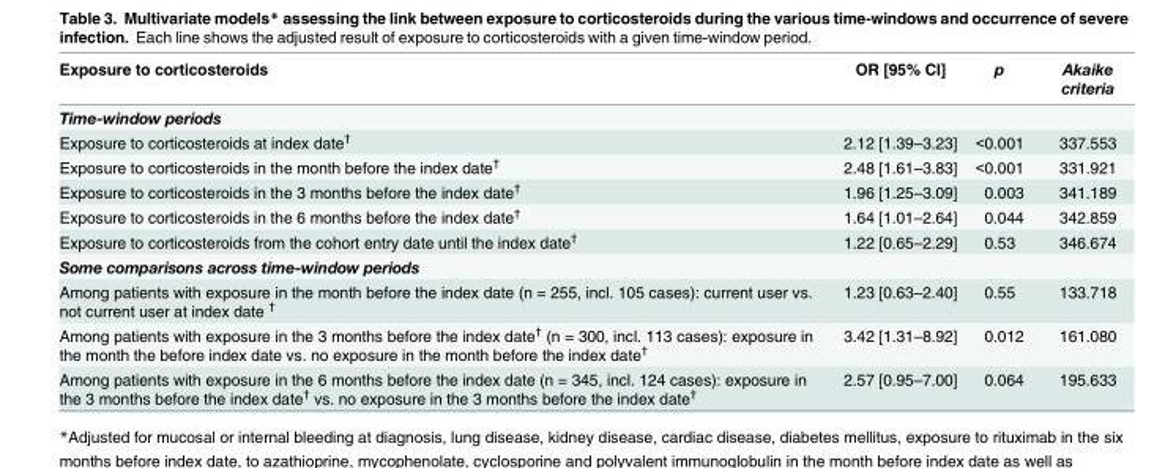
<table><thead><tr><td>Exposure to corticosteroids</td><td>OR [95% CI]</td><td>p</td><td>Akaike criteria</td></tr></thead><tbody><tr><td colspan="4">Time-window periods</td></tr><tr><td>Exposure to corticosteroids at index date<sup>†</sup></td><td>2.12 [1.39–3.23]</td><td>&lt;0.001</td><td>337.553</td></tr><tr><td>Exposure to corticosteroids in the month before the index date<sup>†</sup></td><td>2.48 [1.61–3.83]</td><td>&lt;0.001</td><td>331.921</td></tr><tr><td>Exposure to corticosteroids in the 3 months before the index date<sup>†</sup></td><td>1.96 [1.25–3.09]</td><td>0.003</td><td>341.189</td></tr><tr><td>Exposure to corticosteroids in the 6 months before the index date<sup>†</sup></td><td>1.64 [1.01–2.64]</td><td>0.044</td><td>342.859</td></tr><tr><td>Exposure to corticosteroids from the cohort entry date until the index date<sup>†</sup></td><td>1.22 [0.65–2.29]</td><td>0.53</td><td>346.674</td></tr><tr><td colspan="4">Some comparisons across time-window periods</td></tr><tr><td>Among patients with exposure in the month before the index date (n = 255, incl. 105 cases): current user vs. not current user at index date <sup>†</sup></td><td>1.23 [0.63–2.40]</td><td>0.55</td><td>133.718</td></tr><tr><td>Among patients with exposure in the 3 months before the index date<sup>†</sup> (n = 300, incl. 113 cases): exposure in the month the before index date vs. no exposure in the month before the index date<sup>†</sup></td><td>3.42 [1.31–8.92]</td><td>0.012</td><td>161.080</td></tr><tr><td>Among patients with exposure in the 6 months before the index date (n = 345, incl. 124 cases): exposure in the 3 months before the index date<sup>†</sup> vs. no exposure in the 3 months before the index date<sup>†</sup></td><td>2.57 [0.95–7.00]</td><td>0.064</td><td>195.633</td></tr></tbody></table>